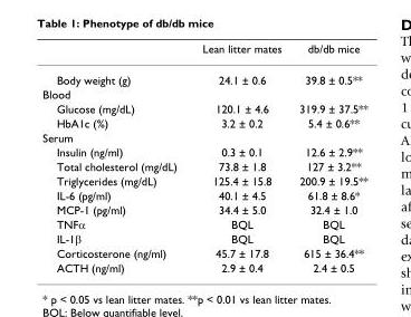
<table><thead><tr><td></td><td>Lean litter mates</td><td>db/db mice</td></tr></thead><tbody><tr><td>Body weight (g)</td><td>24.1 ± 0.6</td><td>39.8 ± 0.5**</td></tr><tr><td colspan="3">Blood</td></tr><tr><td>Glucose (mg/dL)</td><td>120.1 ± 4.6</td><td>319.9 ± 37.5**</td></tr><tr><td>HbA1c (%)</td><td>3.2 ± 0.2</td><td>5.4 ± 0.6**</td></tr><tr><td colspan="3">Serum</td></tr><tr><td>Insulin (ng/ml)</td><td>0.3 ± 0.1</td><td>12.6 ± 2.9**</td></tr><tr><td>Total cholesterol (mg/dL)</td><td>73.8 ± 1.8</td><td>127 ± 3.2**</td></tr><tr><td>Triglycerides (mg/dL)</td><td>125.4 ± 15.8</td><td>200.9 ± 19.5**</td></tr><tr><td>IL-6 (pg/ml)</td><td>40.1 ± 4.5</td><td>61.8 ± 8.6*</td></tr><tr><td>MCP-1 (pg/ml)</td><td>34.4 ± 5.0</td><td>32.4 ± 1.0</td></tr><tr><td>TNFα</td><td>BQL</td><td>BQL</td></tr><tr><td>IL-1β</td><td>BQL</td><td>BQL</td></tr><tr><td>Corticosterone (ng/ml)</td><td>45.7 ± 17.8</td><td>615 ± 36.4**</td></tr><tr><td>ACTH (ng/ml)</td><td>2.9 ± 0.4</td><td>2.4 ± 0.5</td></tr></tbody></table>